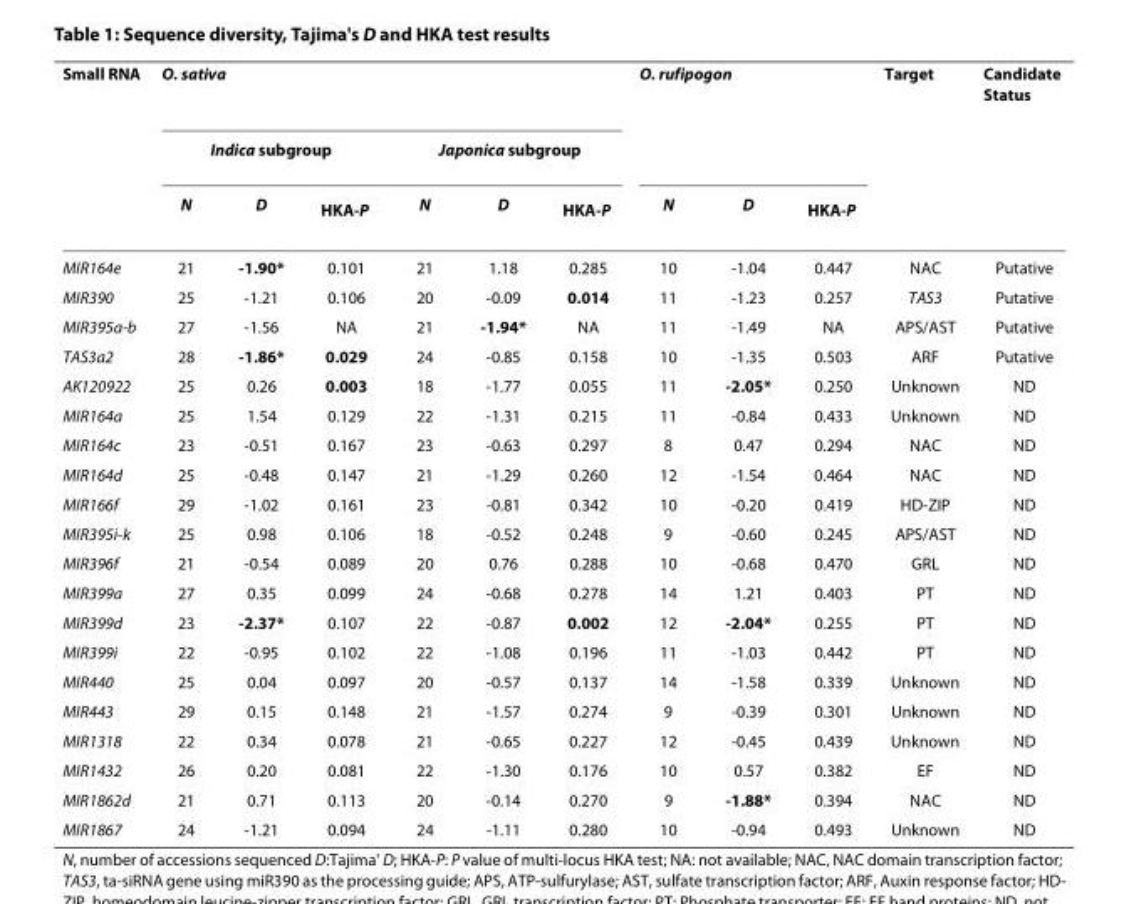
<table><thead><tr><td rowspan="3">Small RNA</td><td colspan="6">O. sativa</td><td colspan="3">O. rufipogon</td><td rowspan="3">Target</td><td rowspan="3">Candidate Status</td></tr><tr><td colspan="3">Indica subgroup</td><td colspan="3">Japonica subgroup</td><td rowspan="2">N</td><td rowspan="2">D</td><td rowspan="2">HKA-P</td></tr><tr><td>N</td><td>D</td><td>HKA-P</td><td>N</td><td>D</td><td>HKA-P</td></tr></thead><tbody><tr><td>MIR164e</td><td>21</td><td>-1.90*</td><td>0.101</td><td>21</td><td>1.18</td><td>0.285</td><td>10</td><td>-1.04</td><td>0.447</td><td>NAC</td><td>Putative</td></tr><tr><td>MIR390</td><td>25</td><td>-1.21</td><td>0.106</td><td>20</td><td>-0.09</td><td>0.014</td><td>11</td><td>-1.23</td><td>0.257</td><td>TAS3</td><td>Putative</td></tr><tr><td>MIR395a-b</td><td>27</td><td>-1.56</td><td>NA</td><td>21</td><td>-1.94*</td><td>NA</td><td>11</td><td>-1.49</td><td>NA</td><td>APS/AST</td><td>Putative</td></tr><tr><td>TAS3a2</td><td>28</td><td>-1.86*</td><td>0.029</td><td>24</td><td>-0.85</td><td>0.158</td><td>10</td><td>-1.35</td><td>0.503</td><td>ARF</td><td>Putative</td></tr><tr><td>AK120922</td><td>25</td><td>0.26</td><td>0.003</td><td>18</td><td>-1.77</td><td>0.055</td><td>11</td><td>-2.05*</td><td>0.250</td><td>Unknown</td><td>ND</td></tr><tr><td>MIR164a</td><td>25</td><td>1.54</td><td>0.129</td><td>22</td><td>-1.31</td><td>0.215</td><td>11</td><td>-0.84</td><td>0.433</td><td>Unknown</td><td>ND</td></tr><tr><td>MIR164c</td><td>23</td><td>-0.51</td><td>0.167</td><td>23</td><td>-0.63</td><td>0.297</td><td>8</td><td>0.47</td><td>0.294</td><td>NAC</td><td>ND</td></tr><tr><td>MIR164d</td><td>25</td><td>-0.48</td><td>0.147</td><td>21</td><td>-1.29</td><td>0.260</td><td>12</td><td>-1.54</td><td>0.464</td><td>NAC</td><td>ND</td></tr><tr><td>MIR166f</td><td>29</td><td>-1.02</td><td>0.161</td><td>23</td><td>-0.81</td><td>0.342</td><td>10</td><td>-0.20</td><td>0.419</td><td>HD-ZIP</td><td>ND</td></tr><tr><td>MIR395i-k</td><td>25</td><td>0.98</td><td>0.106</td><td>18</td><td>-0.52</td><td>0.248</td><td>9</td><td>-0.60</td><td>0.245</td><td>APS/AST</td><td>ND</td></tr><tr><td>MIR396f</td><td>21</td><td>-0.54</td><td>0.089</td><td>20</td><td>0.76</td><td>0.288</td><td>10</td><td>-0.68</td><td>0.470</td><td>GRL</td><td>ND</td></tr><tr><td>MIR399a</td><td>27</td><td>0.35</td><td>0.099</td><td>24</td><td>-0.68</td><td>0.278</td><td>14</td><td>1.21</td><td>0.403</td><td>PT</td><td>ND</td></tr><tr><td>MIR399d</td><td>23</td><td>-2.37*</td><td>0.107</td><td>22</td><td>-0.87</td><td>0.002</td><td>12</td><td>-2.04*</td><td>0.255</td><td>PT</td><td>ND</td></tr><tr><td>MIR399i</td><td>22</td><td>-0.95</td><td>0.102</td><td>22</td><td>-1.08</td><td>0.196</td><td>11</td><td>-1.03</td><td>0.442</td><td>PT</td><td>ND</td></tr><tr><td>MIR440</td><td>25</td><td>0.04</td><td>0.097</td><td>20</td><td>-0.57</td><td>0.137</td><td>14</td><td>-1.58</td><td>0.339</td><td>Unknown</td><td>ND</td></tr><tr><td>MIR443</td><td>29</td><td>0.15</td><td>0.148</td><td>21</td><td>-1.57</td><td>0.274</td><td>9</td><td>-0.39</td><td>0.301</td><td>Unknown</td><td>ND</td></tr><tr><td>MIR1318</td><td>22</td><td>0.34</td><td>0.078</td><td>21</td><td>-0.65</td><td>0.227</td><td>12</td><td>-0.45</td><td>0.439</td><td>Unknown</td><td>ND</td></tr><tr><td>MIR1432</td><td>26</td><td>0.20</td><td>0.081</td><td>22</td><td>-1.30</td><td>0.176</td><td>10</td><td>0.57</td><td>0.382</td><td>EF</td><td>ND</td></tr><tr><td>MIR1862d</td><td>21</td><td>0.71</td><td>0.113</td><td>20</td><td>-0.14</td><td>0.270</td><td>9</td><td>-1.88*</td><td>0.394</td><td>NAC</td><td>ND</td></tr><tr><td>MIR1867</td><td>24</td><td>-1.21</td><td>0.094</td><td>24</td><td>-1.11</td><td>0.280</td><td>10</td><td>-0.94</td><td>0.493</td><td>Unknown</td><td>ND</td></tr></tbody></table>